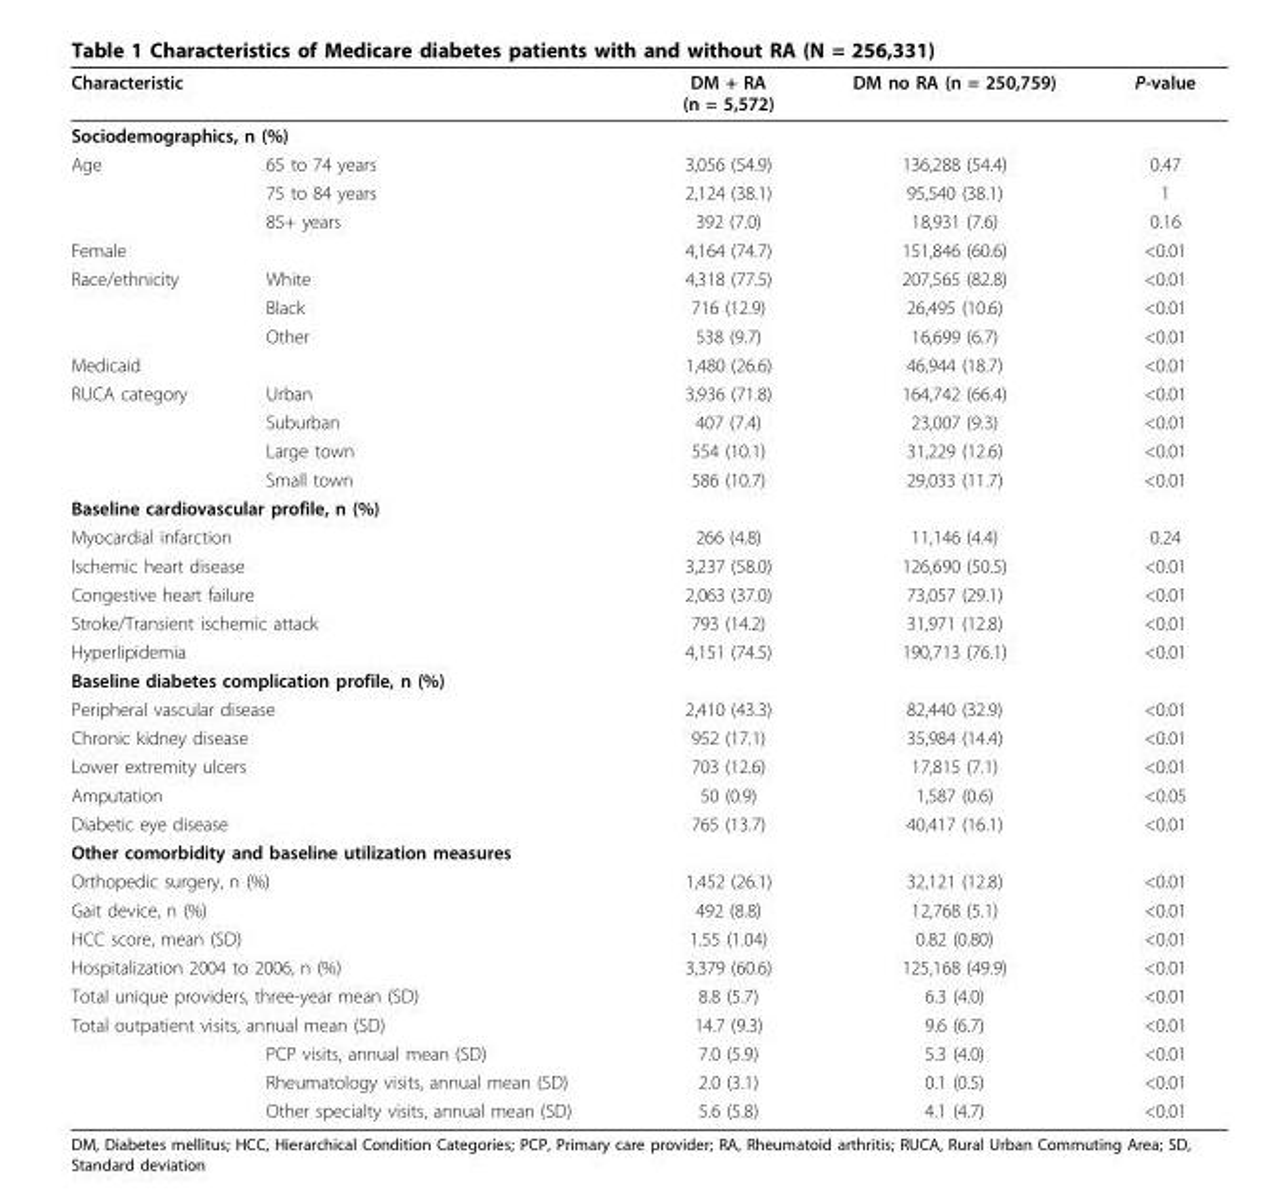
<table><thead><tr><td colspan="2">Characteristic</td><td>DM + RA (n = 5,572)</td><td>DM no RA (n = 250,759)</td><td>P-value</td></tr><tr><td colspan="5">Sociodemographics, n (%)</td></tr><tr><td>Age</td><td>65 to 74 years</td><td>3,056 (54.9)</td><td>136,288 (54.4)</td><td>0.47</td></tr></thead><tbody><tr><td></td><td>75 to 84 years</td><td>2,124 (38.1)</td><td>95,540 (38.1)</td><td>1</td></tr><tr><td></td><td>85+ years</td><td>392 (7.0)</td><td>18,931 (7.6)</td><td>0.16</td></tr><tr><td>Female</td><td></td><td>4,164 (74.7)</td><td>151,846 (60.6)</td><td>&lt;0.01</td></tr><tr><td rowspan="3">Race/ethnicity</td><td>White</td><td>4,318 (77.5)</td><td>207,565 (82.8)</td><td>&lt;0.01</td></tr><tr><td>Black</td><td>716 (12.9)</td><td>26,495 (10.6)</td><td>&lt;0.01</td></tr><tr><td>Other</td><td>538 (9.7)</td><td>16,699 (6.7)</td><td>&lt;0.01</td></tr><tr><td>Medicaid</td><td></td><td>1,480 (26.6)</td><td>46,944 (18.7)</td><td>&lt;0.01</td></tr><tr><td rowspan="4">RUCA category</td><td>Urban</td><td>3,936 (71.8)</td><td>164,742 (66.4)</td><td>&lt;0.01</td></tr><tr><td>Suburban</td><td>407 (7.4)</td><td>23,007 (9.3)</td><td>&lt;0.01</td></tr><tr><td>Large town</td><td>554 (10.1)</td><td>31,229 (12.6)</td><td>&lt;0.01</td></tr><tr><td>Small town</td><td>586 (10.7)</td><td>29,033 (11.7)</td><td>&lt;0.01</td></tr><tr><td colspan="5">Baseline cardiovascular profile, n (%)</td></tr><tr><td colspan="2">Myocardial infarction</td><td>266 (4.8)</td><td>11,146 (4.4)</td><td>0.24</td></tr><tr><td colspan="2">Ischemic heart disease</td><td>3,237 (58.0)</td><td>126,690 (50.5)</td><td>&lt;0.01</td></tr><tr><td colspan="2">Congestive heart failure</td><td>2,063 (37.0)</td><td>73,057 (29.1)</td><td>&lt;0.01</td></tr><tr><td colspan="2">Stroke/Transient ischemic attack</td><td>793 (14.2)</td><td>31,971 (12.8)</td><td>&lt;0.01</td></tr><tr><td colspan="2">Hyperlipidemia</td><td>4,151 (74.5)</td><td>190,713 (76.1)</td><td>&lt;0.01</td></tr><tr><td colspan="5">Baseline diabetes complication profile, n (%)</td></tr><tr><td colspan="2">Peripheral vascular disease</td><td>2,410 (43.3)</td><td>82,440 (32.9)</td><td>&lt;0.01</td></tr><tr><td colspan="2">Chronic kidney disease</td><td>952 (17.1)</td><td>35,984 (14.4)</td><td>&lt;0.01</td></tr><tr><td colspan="2">Lower extremity ulcers</td><td>703 (12.6)</td><td>17,815 (7.1)</td><td>&lt;0.01</td></tr><tr><td colspan="2">Amputation</td><td>50 (0.9)</td><td>1,587 (0.6)</td><td>&lt;0.05</td></tr><tr><td colspan="2">Diabetic eye disease</td><td>765 (13.7)</td><td>40,417 (16.1)</td><td>&lt;0.01</td></tr><tr><td colspan="5">Other comorbidity and baseline utilization measures</td></tr><tr><td colspan="2">Orthopedic surgery, n (%)</td><td>1,452 (26.1)</td><td>32,121 (12.8)</td><td>&lt;0.01</td></tr><tr><td colspan="2">Gait device, n (%)</td><td>492 (8.8)</td><td>12,768 (5.1)</td><td>&lt;0.01</td></tr><tr><td colspan="2">HCC score, mean (SD)</td><td>1.55 (1.04)</td><td>0.82 (0.80)</td><td>&lt;0.01</td></tr><tr><td colspan="2">Hospitalization 2004 to 2006, n (%)</td><td>3,379 (60.6)</td><td>125,168 (49.9)</td><td>&lt;0.01</td></tr><tr><td colspan="2">Total unique providers, three-year mean (SD)</td><td>8.8 (5.7)</td><td>6.3 (4.0)</td><td>&lt;0.01</td></tr><tr><td colspan="2">Total outpatient visits, annual mean (SD)</td><td>14.7 (9.3)</td><td>9.6 (6.7)</td><td>&lt;0.01</td></tr><tr><td></td><td>PCP visits, annual mean (SD)</td><td>7.0 (5.9)</td><td>5.3 (4.0)</td><td>&lt;0.01</td></tr><tr><td></td><td>Rheumatology visits, annual mean (SD)</td><td>2.0 (3.1)</td><td>0.1 (0.5)</td><td>&lt;0.01</td></tr><tr><td></td><td>Other specialty visits, annual mean (SD)</td><td>5.6 (5.8)</td><td>4.1 (4.7)</td><td>&lt;0.01</td></tr></tbody></table>